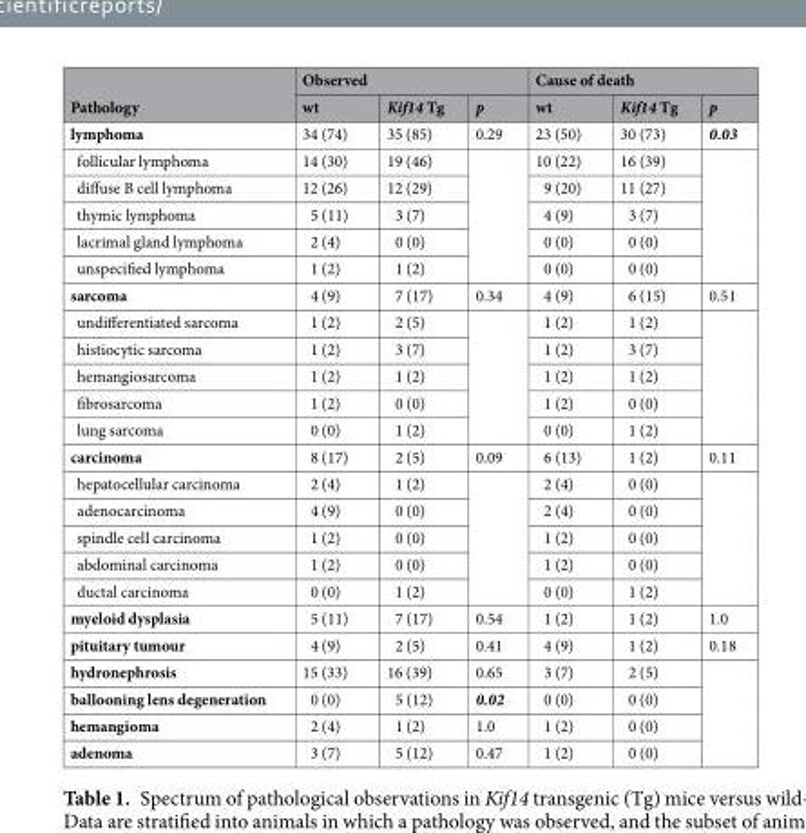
<table><thead><tr><td rowspan="2">Pathology</td><td colspan="3">Observed</td><td colspan="3">Cause of death</td></tr><tr><td>wt</td><td>Kif14 Tg</td><td>p</td><td>wt</td><td>Kif14 Tg</td><td>p</td></tr></thead><tbody><tr><td>lymphoma</td><td>34 (74)</td><td>35 (85)</td><td>0.29</td><td>23 (50)</td><td>30 (73)</td><td>0.03</td></tr><tr><td>follicular lymphoma</td><td>14 (30)</td><td>19 (46)</td><td rowspan="5"></td><td>10 (22)</td><td>16 (39)</td><td rowspan="5"></td></tr><tr><td>diffuse B cell lymphoma</td><td>12 (26)</td><td>12 (29)</td><td>9 (20)</td><td>11 (27)</td></tr><tr><td>thymic lymphoma</td><td>5 (11)</td><td>3 (7)</td><td>4 (9)</td><td>3 (7)</td></tr><tr><td>lacrimal gland lymphoma</td><td>2 (4)</td><td>0 (0)</td><td>0 (0)</td><td>0 (0)</td></tr><tr><td>unspecified lymphoma</td><td>1 (2)</td><td>1 (2)</td><td>0 (0)</td><td>0 (0)</td></tr><tr><td>sarcoma</td><td>4 (9)</td><td>7 (17)</td><td>0.34</td><td>4 (9)</td><td>6 (15)</td><td>0.51</td></tr><tr><td>undifferentiated sarcoma</td><td>1 (2)</td><td>2 (5)</td><td rowspan="5"></td><td>1 (2)</td><td>1 (2)</td><td rowspan="5"></td></tr><tr><td>histiocytic sarcoma</td><td>1 (2)</td><td>3 (7)</td><td>1 (2)</td><td>3 (7)</td></tr><tr><td>hemangiosarcoma</td><td>1 (2)</td><td>1 (2)</td><td>1 (2)</td><td>1 (2)</td></tr><tr><td>fibrosarcoma</td><td>1 (2)</td><td>0 (0)</td><td>1 (2)</td><td>0 (0)</td></tr><tr><td>lung sarcoma</td><td>0 (0)</td><td>1 (2)</td><td>0 (0)</td><td>1 (2)</td></tr><tr><td>carcinoma</td><td>8 (17)</td><td>2 (5)</td><td>0.09</td><td>6 (13)</td><td>1 (2)</td><td>0.11</td></tr><tr><td>hepatocellular carcinoma</td><td>2 (4)</td><td>1 (2)</td><td rowspan="5"></td><td>2 (4)</td><td>0 (0)</td><td rowspan="5"></td></tr><tr><td>adenocarcinoma</td><td>4 (9)</td><td>0 (0)</td><td>2 (4)</td><td>0 (0)</td></tr><tr><td>spindle cell carcinoma</td><td>1 (2)</td><td>0 (0)</td><td>1 (2)</td><td>0 (0)</td></tr><tr><td>abdominal carcinoma</td><td>1 (2)</td><td>0 (0)</td><td>1 (2)</td><td>0 (0)</td></tr><tr><td>ductal carcinoma</td><td>0 (0)</td><td>1 (2)</td><td>0 (0)</td><td>1 (2)</td></tr><tr><td>myeloid dysplasia</td><td>5 (11)</td><td>7 (17)</td><td>0.54</td><td>1 (2)</td><td>1 (2)</td><td>1.0</td></tr><tr><td>pituitary tumour</td><td>4 (9)</td><td>2 (5)</td><td>0.41</td><td>4 (9)</td><td>1 (2)</td><td>0.18</td></tr><tr><td>hydronephrosis</td><td>15 (33)</td><td>16 (39)</td><td>0.65</td><td>3 (7)</td><td>2 (5)</td><td rowspan="4"></td></tr><tr><td>ballooning lens degeneration</td><td>0 (0)</td><td>5 (12)</td><td>0.02</td><td>0 (0)</td><td>0 (0)</td></tr><tr><td>hemangioma</td><td>2 (4)</td><td>1 (2)</td><td>1.0</td><td>1 (2)</td><td>0 (0)</td></tr><tr><td>adenoma</td><td>3 (7)</td><td>5 (12)</td><td>0.47</td><td>1 (2)</td><td>0 (0)</td></tr></tbody></table>